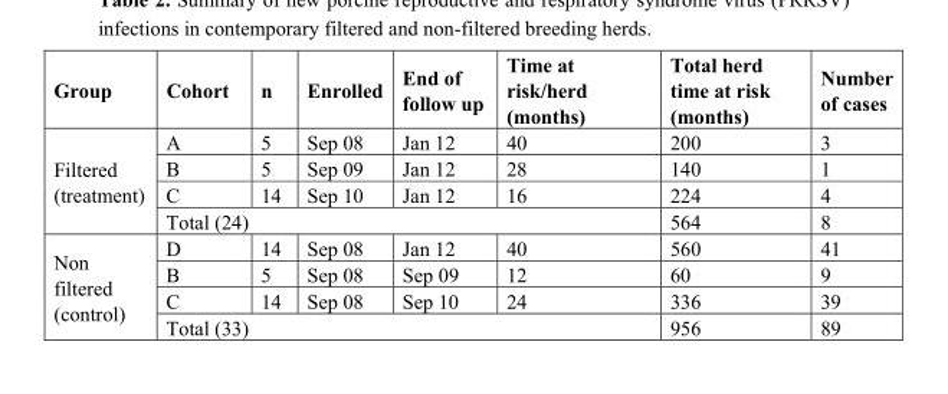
<table><thead><tr><td>Group</td><td>Cohort</td><td>n</td><td>Enrolled</td><td>End of follow up</td><td>Time at risk/herd (months)</td><td>Total herd time at risk (months)</td><td>Number of cases</td></tr></thead><tbody><tr><td rowspan="4">Filtered (treatment)</td><td>A</td><td>5</td><td>Sep 08</td><td>Jan 12</td><td>40</td><td>200</td><td>3</td></tr><tr><td>B</td><td>5</td><td>Sep 09</td><td>Jan 12</td><td>28</td><td>140</td><td>1</td></tr><tr><td>C</td><td>14</td><td>Sep 10</td><td>Jan 12</td><td>16</td><td>224</td><td>4</td></tr><tr><td colspan="5">Total (24)</td><td>564</td><td>8</td></tr><tr><td rowspan="4">Non filtered (control)</td><td>D</td><td>14</td><td>Sep 08</td><td>Jan 12</td><td>40</td><td>560</td><td>41</td></tr><tr><td>B</td><td>5</td><td>Sep 08</td><td>Sep 09</td><td>12</td><td>60</td><td>9</td></tr><tr><td>C</td><td>14</td><td>Sep 08</td><td>Sep 10</td><td>24</td><td>336</td><td>39</td></tr><tr><td colspan="5">Total (33)</td><td>956</td><td>89</td></tr></tbody></table>